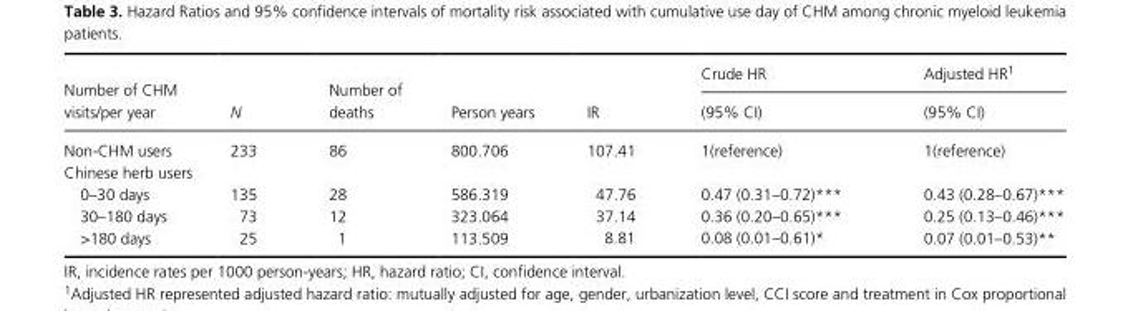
<table><thead><tr><td rowspan="2">Number of CHM visits/per year</td><td rowspan="2">N</td><td rowspan="2">Number of deaths</td><td rowspan="2">Person years</td><td rowspan="2">IR</td><td rowspan="2">Crude HR (95% CI)</td><td rowspan="2">Adjusted HR<sup>1</sup> (95% CI)</td></tr><tr></tr></thead><tbody><tr><td>Non- CHM users</td><td>233</td><td>86</td><td>800.706</td><td>107.41</td><td>1(reference)</td><td>1(reference)</td></tr><tr><td colspan="7">Chinese herb users</td></tr><tr><td>0–30 days</td><td>135</td><td>28</td><td>586.319</td><td>47.76</td><td>0.47 (0.31–0.72)***</td><td>0.43 (0.28–0.67)***</td></tr><tr><td>30–180 days</td><td>73</td><td>12</td><td>323.064</td><td>37.14</td><td>0.36 (0.20–0.65)***</td><td>0.25 (0.13–0.46)***</td></tr><tr><td>&gt;180 days</td><td>25</td><td>1</td><td>113.509</td><td>8.81</td><td>0.08 (0.01–0.61)*</td><td>0.07 (0.01–0.53)**</td></tr></tbody></table>